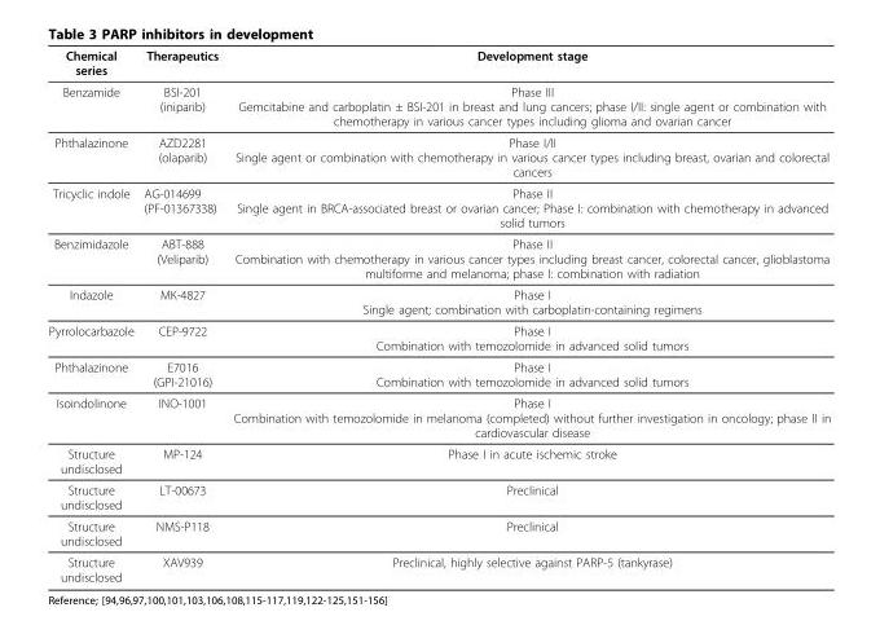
<table><thead><tr><td>Chemical series</td><td>Therapeutics</td><td>Development stage</td></tr></thead><tbody><tr><td>Benzamide</td><td>BSI-201 (iniparib)</td><td>Phase III Gemcitabine and carboplatin ± BSI-201 in breast and lung cancers; phase I/II: single agent or combination with chemotherapy in various cancer types including glioma and ovarian cancer</td></tr><tr><td>Phthalazinone</td><td>AZD2281 (olaparib)</td><td>Phase I/II Single agent or combination with chemotherapy in various cancer types including breast, ovarian and colorectal cancers</td></tr><tr><td>Tricyclic indole</td><td>AG-014699 (PF-01367338)</td><td>Phase II Single agent in BRCA-associated breast or ovarian cancer; Phase I: combination with chemotherapy in advanced solid tumors</td></tr><tr><td>Benzimidazole</td><td>ABT-888 (Veliparib)</td><td>Phase II Combination with chemotherapy in various cancer types including breast cancer, colorectal cancer, glioblastoma multiforme and melanoma; phase I: combination with radiation</td></tr><tr><td>Indazole</td><td>MK-4827</td><td>Phase I Single agent; combination with carboplatin-containing regimens</td></tr><tr><td>Pyrrolocarbazole</td><td>CEP-9722</td><td>Phase I Combination with temozolomide in advanced solid tumors</td></tr><tr><td>Phthalazinone</td><td>E7016 (GPI-21016)</td><td>Phase I Combination with temozolomide in advanced solid tumors</td></tr><tr><td>Isoindolinone</td><td>INO-1001</td><td>Phase I Combination with temozolomide in melanoma (completed) without further investigation in oncology; phase II in cardiovascular disease</td></tr><tr><td>Structure undisclosed</td><td>MP-124</td><td>Phase I in acute ischemic stroke</td></tr><tr><td>Structure undisclosed</td><td>LT-00673</td><td>Preclinical</td></tr><tr><td>Structure undisclosed</td><td>NMS-P118</td><td>Preclinical</td></tr><tr><td>Structure undisclosed</td><td>XAV939</td><td>Preclinical, highly selective against PARP-5 (tankyrase)</td></tr></tbody></table>